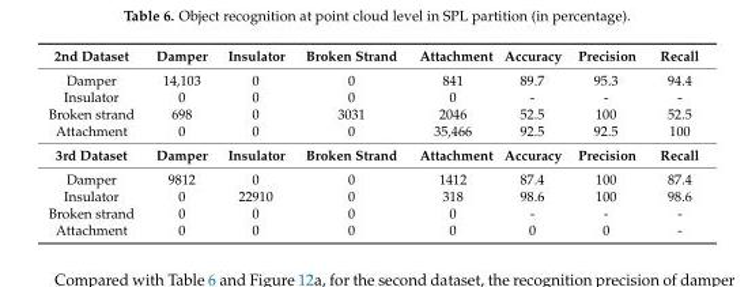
<table><tbody><tr><td>2nd Dataset</td><td>Damper</td><td>Insulator</td><td>Broken Strand</td><td>Attachment</td><td>Accuracy</td><td>Precision</td><td>Recall</td></tr><tr><td>Damper</td><td>14,103</td><td>0</td><td>0</td><td>841</td><td>89.7</td><td>95.3</td><td>94.4</td></tr><tr><td>Insulator</td><td>0</td><td>0</td><td>0</td><td>0</td><td>-</td><td>-</td><td>-</td></tr><tr><td>Broken strand</td><td>698</td><td>0</td><td>3031</td><td>2046</td><td>52.5</td><td>100</td><td>52.5</td></tr><tr><td>Attachment</td><td>0</td><td>0</td><td>0</td><td>35,466</td><td>92.5</td><td>92.5</td><td>100</td></tr><tr><td>3rd Dataset</td><td>Damper</td><td>Insulator</td><td>Broken Strand</td><td>Attachment</td><td>Accuracy</td><td>Precision</td><td>Recall</td></tr><tr><td>Damper</td><td>9812</td><td>0</td><td>0</td><td>1412</td><td>87.4</td><td>100</td><td>87.4</td></tr><tr><td>Insulator</td><td>0</td><td>22910</td><td>0</td><td>318</td><td>98.6</td><td>100</td><td>98.6</td></tr><tr><td>Broken strand</td><td>0</td><td>0</td><td>0</td><td>0</td><td>-</td><td>-</td><td>-</td></tr><tr><td>Attachment</td><td>0</td><td>0</td><td>0</td><td>0</td><td>0</td><td>0</td><td>-</td></tr></tbody></table>